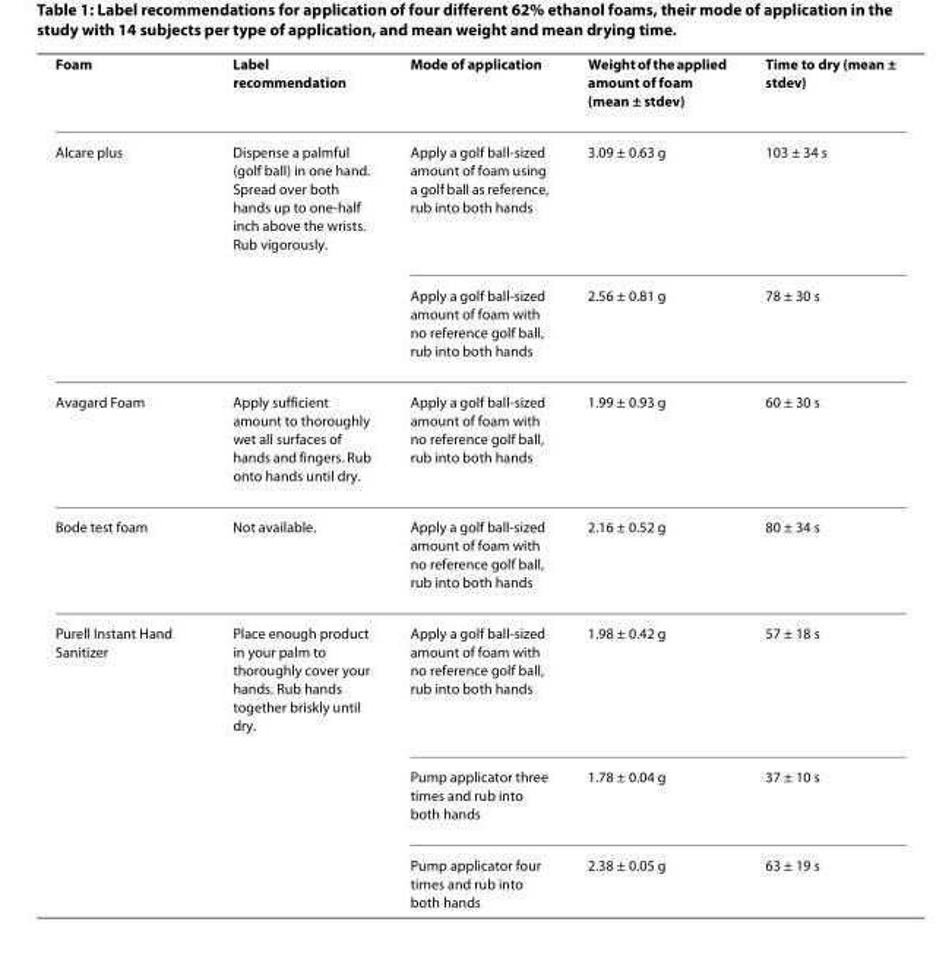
<table><thead><tr><td>Foam</td><td>Label recommendation</td><td>Mode of application</td><td>Weight of the applied amount of foam (mean ± stdev)</td><td>Time to dry (mean ± stdev)</td></tr></thead><tbody><tr><td rowspan="2">Alcare plus</td><td>Dispense a palmful (golf ball) in one hand. Spread over both hands up to one-half inch above the wrists. Rub vigorously.</td><td>Apply a golf ball-sized amount of foam using a golf ball as reference, rub into both hands</td><td>3.09 ± 0.63 g</td><td>103 ± 34 s</td></tr><tr><td></td><td>Apply a golf ball-sized amount of foam with no reference golf ball, rub into both hands</td><td>2.56 ± 0.81 g</td><td>78 ± 30 s</td></tr><tr><td>Avagard Foam</td><td>Apply sufficient amount to thoroughly wet all surfaces of hands and fingers. Rub onto hands until dry.</td><td>Apply a golf ball-sized amount of foam with no reference golf ball, rub into both hands</td><td>1.99 ± 0.93 g</td><td>60 ± 30 s</td></tr><tr><td>Bode test foam</td><td>Not available.</td><td>Apply a golf ball-sized amount of foam with no reference golf ball, rub into both hands</td><td>2.16 ± 0.52 g</td><td>80 ± 34 s</td></tr><tr><td rowspan="3">Purell Instant Hand Sanitizer</td><td>Place enough product in your palm to thoroughly cover your hands. Rub hands together briskly until dry.</td><td>Apply a golf ball-sized amount of foam with no reference golf ball, rub into both hands</td><td>1.98 ± 0.42 g</td><td>57 ± 18 s</td></tr><tr><td></td><td>Pump applicator three times and rub into both hands</td><td>1.78 ± 0.04 g</td><td>37 ± 10 s</td></tr><tr><td></td><td>Pump applicator four times and rub into both hands</td><td>2.38 ± 0.05 g</td><td>63 ± 19 s</td></tr></tbody></table>